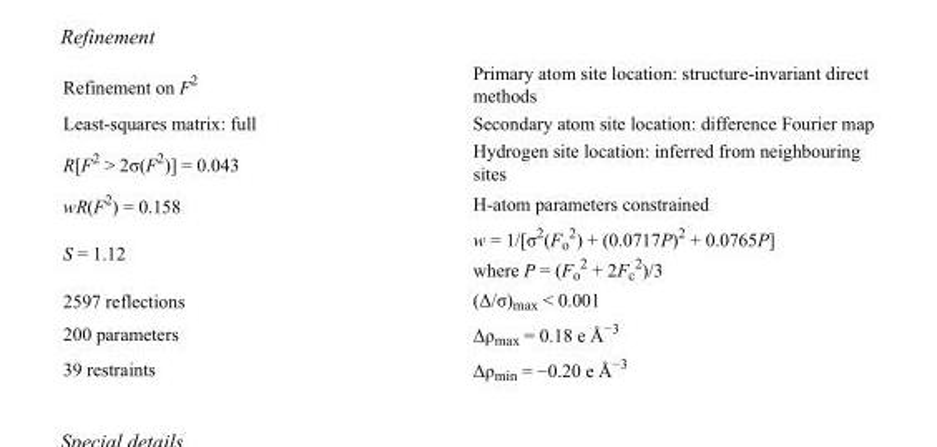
<table><tbody><tr><td>Refinement on F<sup>2</sup></td><td>Primary atom site location: structure-invariant direct methods</td></tr><tr><td>Least-squares matrix: full</td><td>Secondary atom site location: difference Fourier map</td></tr><tr><td>R[F<sup>2</sup> &gt; 2σ(F<sup>2</sup>)] = 0.043</td><td>Hydrogen site location: inferred from neighbouring sites</td></tr><tr><td>wR(F<sup>2</sup>) = 0.158</td><td>H-atom parameters constrained</td></tr><tr><td>S = 1.12</td><td>w = 1/[σ<sup>2</sup>(F<sub>o</sub> <sup>2</sup>) + (0.0717P)<sup>2</sup> + 0.0765P] where P = (F<sub>o</sub> <sup>2</sup> + 2F<sub>c</sub> <sup>2</sup>)/3</td></tr><tr><td>2597 reflections</td><td>(Δ/σ)<sub>max</sub> &lt; 0.001</td></tr><tr><td>200 parameters</td><td>Δρ<sub>max</sub> = 0.18 e Å<sup>−3</sup></td></tr><tr><td>39 restraints</td><td>Δρ<sub>min</sub> = −0.20 e Å<sup>−3</sup></td></tr></tbody></table>